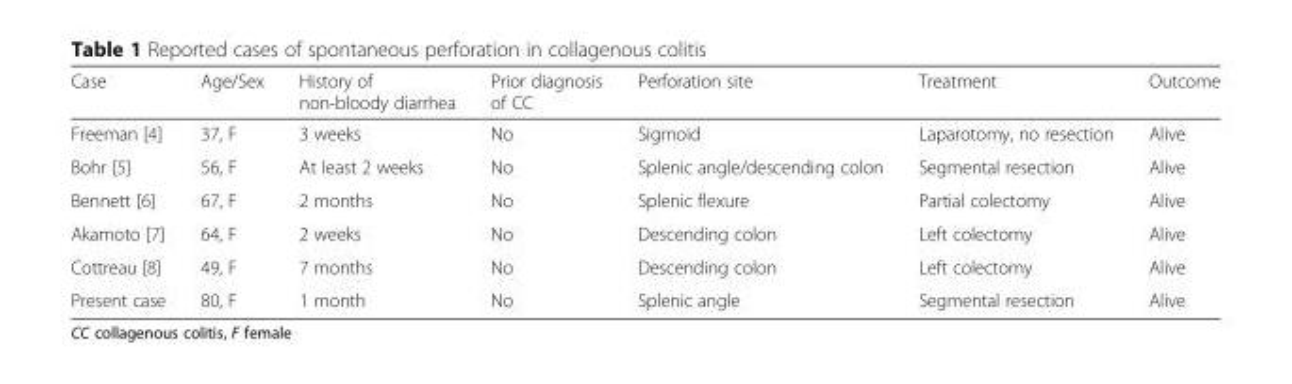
<table><thead><tr><td>Case</td><td>Age/Sex</td><td>History of non-bloody diarrhea</td><td>Prior diagnosis of CC</td><td>Perforation site</td><td>Treatment</td><td>Outcome</td></tr></thead><tbody><tr><td>Freeman [4]</td><td>37, F</td><td>3 weeks</td><td>No</td><td>Sigmoid</td><td>Laparotomy, no resection</td><td>Alive</td></tr><tr><td>Bohr [5]</td><td>56, F</td><td>At least 2 weeks</td><td>No</td><td>Splenic angle/descending colon</td><td>Segmental resection</td><td>Alive</td></tr><tr><td>Bennett [6]</td><td>67, F</td><td>2 months</td><td>No</td><td>Splenic flexure</td><td>Partial colectomy</td><td>Alive</td></tr><tr><td>Akamoto [7]</td><td>64, F</td><td>2 weeks</td><td>No</td><td>Descending colon</td><td>Left colectomy</td><td>Alive</td></tr><tr><td>Cottreau [8]</td><td>49, F</td><td>7 months</td><td>No</td><td>Descending colon</td><td>Left colectomy</td><td>Alive</td></tr><tr><td>Present case</td><td>80, F</td><td>1 month</td><td>No</td><td>Splenic angle</td><td>Segmental resection</td><td>Alive</td></tr></tbody></table>